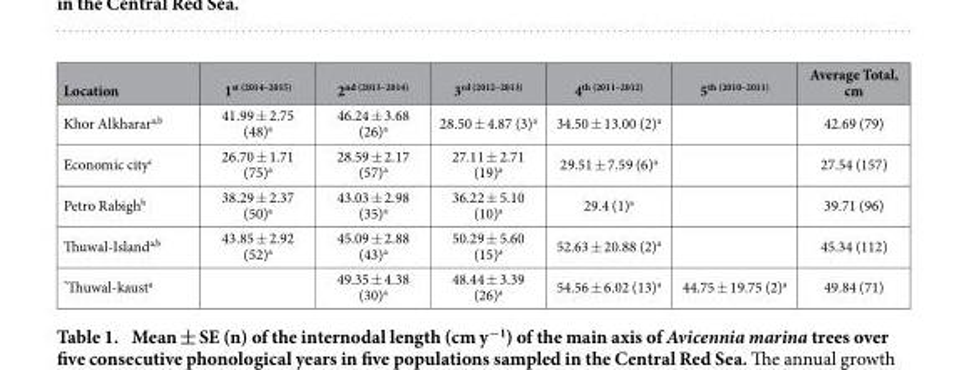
<table><thead><tr><td>Location</td><td>1<sup>st (2014–2015)</sup></td><td>2<sup>nd (2013–2014)</sup></td><td>3<sup>rd (2012–2013)</sup></td><td>4<sup>th (2011–2012)</sup></td><td>5<sup>th (2010–2011)</sup></td><td>Average Total, cm</td></tr></thead><tbody><tr><td>Khor Alkharar<sup>a,b</sup></td><td>41.99 ± 2.75 (48)<sup>a</sup></td><td>46.24 ± 3.68 (26)<sup>a</sup></td><td>28.50 ± 4.87 (3)<sup>a</sup></td><td>34.50 ± 13.00 (2)<sup>a</sup></td><td></td><td>42.69 (79)</td></tr><tr><td>Economic city<sup>c</sup></td><td>26.70 ± 1.71 (75)<sup>a</sup></td><td>28.59 ± 2.17 (57)<sup>a</sup></td><td>27.11 ± 2.71 (19)<sup>a</sup></td><td>29.51 ± 7.59 (6)<sup>a</sup></td><td></td><td>27.54 (157)</td></tr><tr><td>Petro Rabigh<sup>b</sup></td><td>38.29 ± 2.37 (50)<sup>a</sup></td><td>43.03 ± 2.98 (35)<sup>a</sup></td><td>36.22 ± 5.10 (10)<sup>a</sup></td><td>29.4 (1)<sup>a</sup></td><td></td><td>39.71 (96)</td></tr><tr><td>Thuwal-Island<sup>a,b</sup></td><td>43.85 ± 2.92 (52)<sup>a</sup></td><td>45.09 ± 2.88 (43)<sup>a</sup></td><td>50.29 ± 5.60 (15)<sup>a</sup></td><td>52.63 ± 20.88 (2)<sup>a</sup></td><td></td><td>45.34 (112)</td></tr><tr><td>*Thuwal-kaust<sup>a</sup></td><td></td><td>49.35 ± 4.38 (30)<sup>a</sup></td><td>48.44 ± 3.39 (26)<sup>a</sup></td><td>54.56 ± 6.02 (13)<sup>a</sup></td><td>44.75 ± 19.75 (2)<sup>a</sup></td><td>49.84 (71)</td></tr></tbody></table>